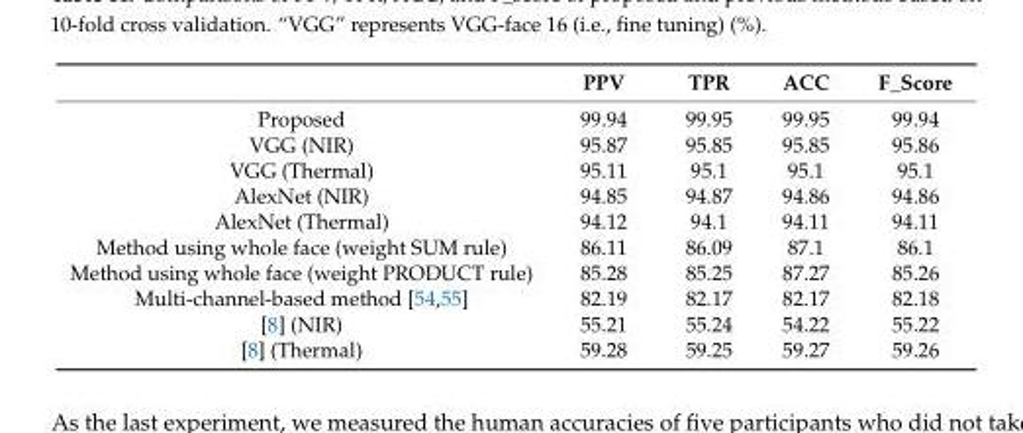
<table><thead><tr><td></td><td>PPV</td><td>TPR</td><td>ACC</td><td>F_Score</td></tr></thead><tbody><tr><td>Proposed</td><td>99.94</td><td>99.95</td><td>99.95</td><td>99.94</td></tr><tr><td>VGG (NIR)</td><td>95.87</td><td>95.85</td><td>95.85</td><td>95.86</td></tr><tr><td>VGG (Thermal)</td><td>95.11</td><td>95.1</td><td>95.1</td><td>95.1</td></tr><tr><td>AlexNet (NIR)</td><td>94.85</td><td>94.87</td><td>94.86</td><td>94.86</td></tr><tr><td>AlexNet (Thermal)</td><td>94.12</td><td>94.1</td><td>94.11</td><td>94.11</td></tr><tr><td>Method using whole face (weight SUM rule)</td><td>86.11</td><td>86.09</td><td>87.1</td><td>86.1</td></tr><tr><td>Method using whole face (weight PRODUCT rule)</td><td>85.28</td><td>85.25</td><td>87.27</td><td>85.26</td></tr><tr><td>Multi-channel-based method [54,55]</td><td>82.19</td><td>82.17</td><td>82.17</td><td>82.18</td></tr><tr><td>[8] (NIR)</td><td>55.21</td><td>55.24</td><td>54.22</td><td>55.22</td></tr><tr><td>[8] (Thermal)</td><td>59.28</td><td>59.25</td><td>59.27</td><td>59.26</td></tr></tbody></table>